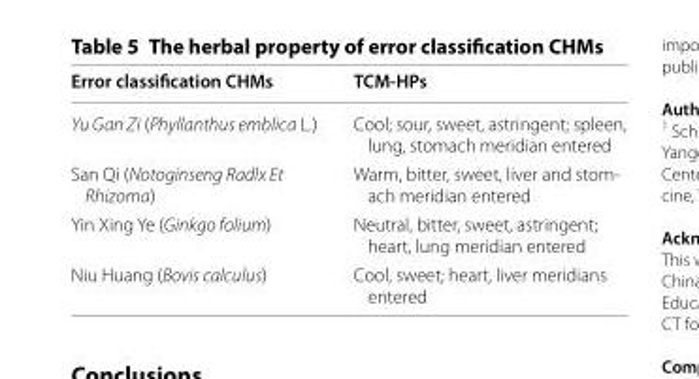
<table><thead><tr><td>Error classification CHMs</td><td>TCM‑HPs</td></tr></thead><tbody><tr><td>Yu Gan Zi (Phyllanthus emblica L.)</td><td>Cool; sour, sweet, astringent; spleen, lung, stomach meridian entered</td></tr><tr><td>San Qi (Notoginseng Radlx Et Rhizoma)</td><td>Warm, bitter, sweet, liver and stom- ach meridian entered</td></tr><tr><td>Yin Xing Ye (Ginkgo folium)</td><td>Neutral, bitter, sweet, astringent; heart, lung meridian entered</td></tr><tr><td>Niu Huang (Bovis calculus)</td><td>Cool, sweet; heart, liver meridians entered</td></tr></tbody></table>